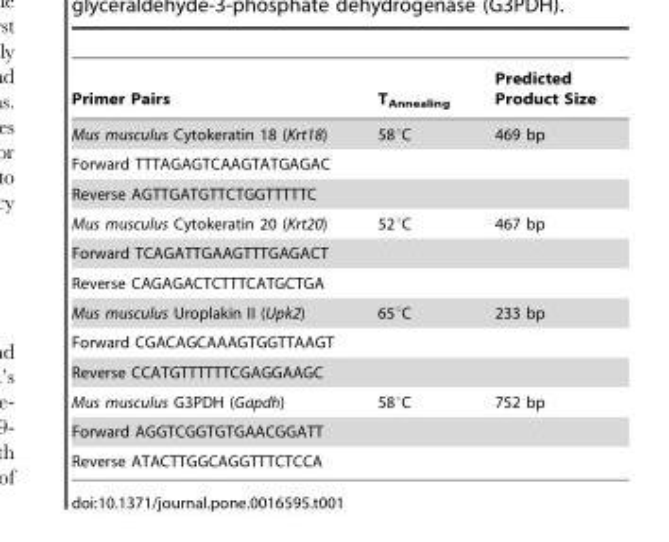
<table><thead><tr><td>Primer Pairs</td><td>T<sub>Annealing</sub></td><td>Predicted Product Size</td></tr></thead><tbody><tr><td>Mus musculus Cytokeratin 18 (Krt18)</td><td>58°C</td><td>469 bp</td></tr><tr><td colspan="3">Forward TTTAGAGTCAAGTATGAGAC</td></tr><tr><td colspan="3">Reverse AGTTGATGTTCTGGTTTTTC</td></tr><tr><td>Mus musculus Cytokeratin 20 (Krt20)</td><td>52°C</td><td>467 bp</td></tr><tr><td colspan="3">Forward TCAGATTGAAGTTTGAGACT</td></tr><tr><td colspan="3">Reverse CAGAGACTCTTTCATGCTGA</td></tr><tr><td>Mus musculus Uroplakin II (Upk2)</td><td>65°C</td><td>233 bp</td></tr><tr><td colspan="3">Forward CGACAGCAAAGTGGTTAAGT</td></tr><tr><td colspan="3">Reverse CCATGTTTTTTCGAGGAAGC</td></tr><tr><td>Mus musculus G3PDH (Gapdh)</td><td>58°C</td><td>752 bp</td></tr><tr><td colspan="3">Forward AGGTCGGTGTGAACGGATT</td></tr><tr><td colspan="3">Reverse ATACTTGGCAGGTTTCTCCA</td></tr></tbody></table>